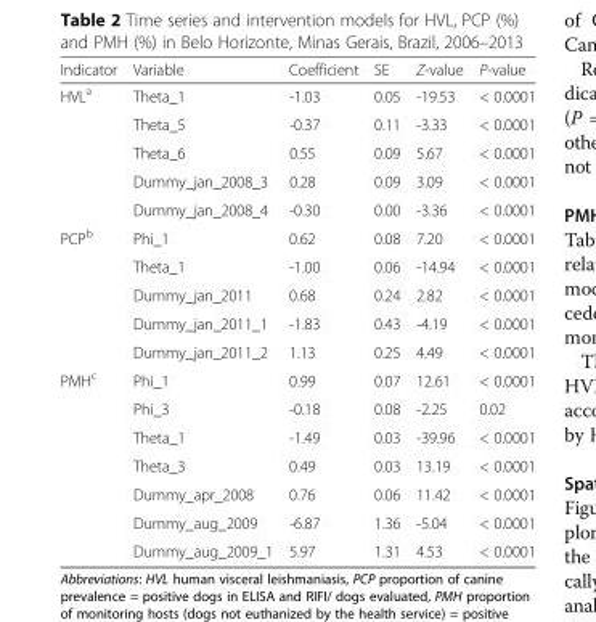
<table><thead><tr><td>Indicator</td><td>Variable</td><td>Coefficient</td><td>SE</td><td>Z-value</td><td>P-value</td></tr></thead><tbody><tr><td rowspan="5">HVL<sup>a</sup></td><td>Theta_1</td><td>-1.03</td><td>0.05</td><td>-19.53</td><td>&lt; 0.0001</td></tr><tr><td>Theta_5</td><td>-0.37</td><td>0.11</td><td>-3.33</td><td>&lt; 0.0001</td></tr><tr><td>Theta_6</td><td>0.55</td><td>0.09</td><td>5.67</td><td>&lt; 0.0001</td></tr><tr><td>Dummy_jan_2008_3</td><td>0.28</td><td>0.09</td><td>3.09</td><td>&lt; 0.0001</td></tr><tr><td>Dummy_jan_2008_4</td><td>-0.30</td><td>0.00</td><td>-3.36</td><td>&lt; 0.0001</td></tr><tr><td rowspan="5">PCP<sup>b</sup></td><td>Phi_1</td><td>0.62</td><td>0.08</td><td>7.20</td><td>&lt; 0.0001</td></tr><tr><td>Theta_1</td><td>-1.00</td><td>0.06</td><td>-14.94</td><td>&lt; 0.0001</td></tr><tr><td>Dummy_jan_2011</td><td>0.68</td><td>0.24</td><td>2.82</td><td>&lt; 0.0001</td></tr><tr><td>Dummy_jan_2011_1</td><td>-1.83</td><td>0.43</td><td>-4.19</td><td>&lt; 0.0001</td></tr><tr><td>Dummy_jan_2011_2</td><td>1.13</td><td>0.25</td><td>4.49</td><td>&lt; 0.0001</td></tr><tr><td rowspan="7">PMH<sup>c</sup></td><td>Phi_1</td><td>0.99</td><td>0.07</td><td>12.61</td><td>&lt; 0.0001</td></tr><tr><td>Phi_3</td><td>-0.18</td><td>0.08</td><td>-2.25</td><td>0.02</td></tr><tr><td>Theta_1</td><td>-1.49</td><td>0.03</td><td>-39.96</td><td>&lt; 0.0001</td></tr><tr><td>Theta_3</td><td>0.49</td><td>0.03</td><td>13.19</td><td>&lt; 0.0001</td></tr><tr><td>Dummy_apr_2008</td><td>0.76</td><td>0.06</td><td>11.42</td><td>&lt; 0.0001</td></tr><tr><td>Dummy_aug_2009</td><td>-6.87</td><td>1.36</td><td>-5.04</td><td>&lt; 0.0001</td></tr><tr><td>Dummy_aug_2009_1</td><td>5.97</td><td>1.31</td><td>4.53</td><td>&lt; 0.0001</td></tr></tbody></table>